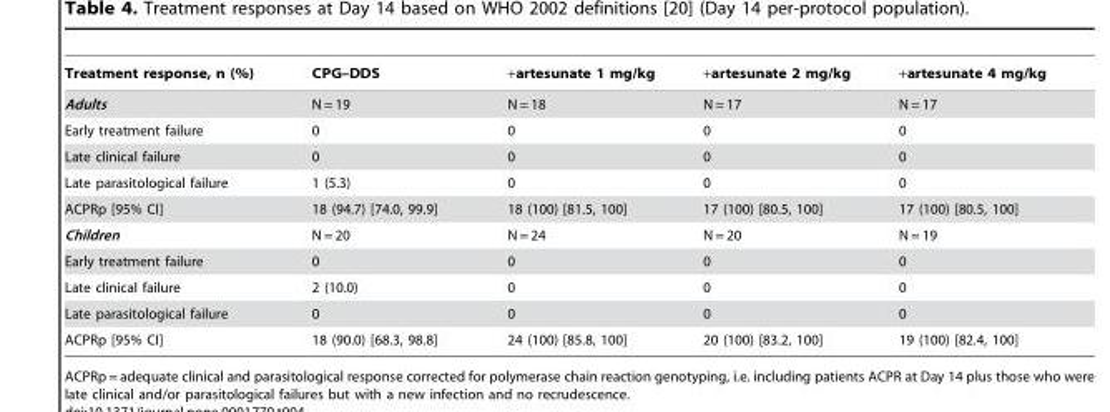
<table><thead><tr><td>Treatment response, n (%)</td><td>CPG–DDS</td><td>+artesunate 1 mg/kg</td><td>+artesunate 2 mg/kg</td><td>+artesunate 4 mg/kg</td></tr></thead><tbody><tr><td>Adults</td><td>N = 19</td><td>N = 18</td><td>N = 17</td><td>N = 17</td></tr><tr><td>Early treatment failure</td><td>0</td><td>0</td><td>0</td><td>0</td></tr><tr><td>Late clinical failure</td><td>0</td><td>0</td><td>0</td><td>0</td></tr><tr><td>Late parasitological failure</td><td>1 (5.3)</td><td>0</td><td>0</td><td>0</td></tr><tr><td>ACPRp [95% CI]</td><td>18 (94.7) [74.0, 99.9]</td><td>18 (100) [81.5, 100]</td><td>17 (100) [80.5, 100]</td><td>17 (100) [80.5, 100]</td></tr><tr><td>Children</td><td>N = 20</td><td>N = 24</td><td>N = 20</td><td>N = 19</td></tr><tr><td>Early treatment failure</td><td>0</td><td>0</td><td>0</td><td>0</td></tr><tr><td>Late clinical failure</td><td>2 (10.0)</td><td>0</td><td>0</td><td>0</td></tr><tr><td>Late parasitological failure</td><td>0</td><td>0</td><td>0</td><td>0</td></tr><tr><td>ACPRp [95% CI]</td><td>18 (90.0) [68.3, 98.8]</td><td>24 (100) [85.8, 100]</td><td>20 (100) [83.2, 100]</td><td>19 (100) [82.4, 100]</td></tr></tbody></table>